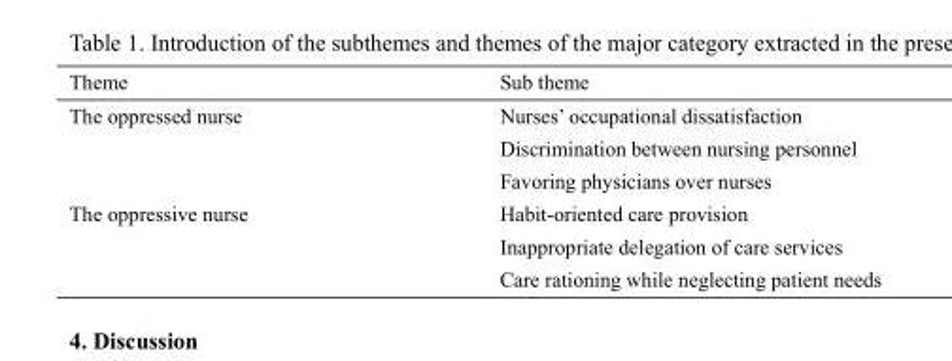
<table><thead><tr><td>Theme</td><td>Sub theme</td></tr></thead><tbody><tr><td rowspan="3">The oppressed nurse</td><td>Nurses’ occupational dissatisfaction</td></tr><tr><td>Discrimination between nursing personnel</td></tr><tr><td>Favoring physicians over nurses</td></tr><tr><td rowspan="3">The oppressive nurse</td><td>Habit-oriented care provision</td></tr><tr><td>Inappropriate delegation of care services</td></tr><tr><td>Care rationing while neglecting patient needs</td></tr></tbody></table>